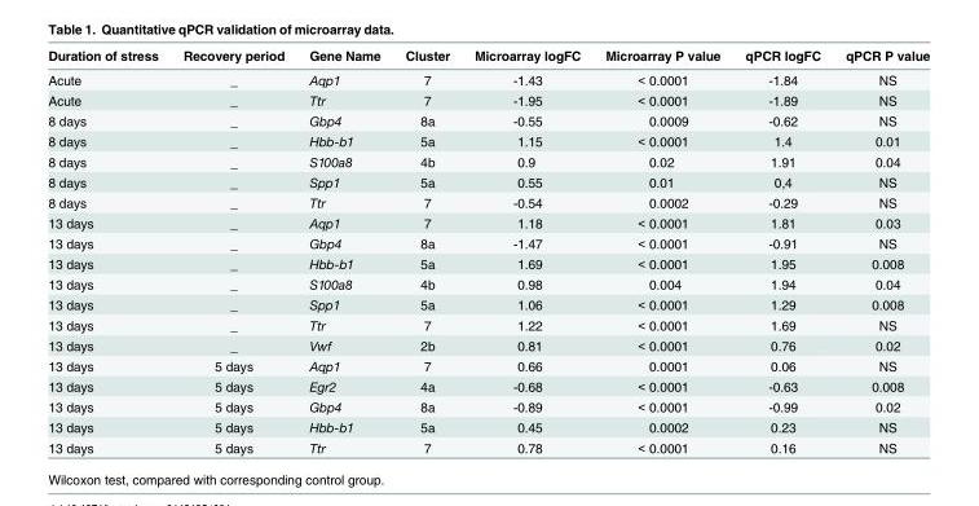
<table><thead><tr><td>Duration of stress</td><td>Recovery period</td><td>Gene Name</td><td>Cluster</td><td>Microarray logFC</td><td>Microarray P value</td><td>qPCR logFC</td><td>qPCR P value</td></tr></thead><tbody><tr><td>Acute</td><td>_</td><td>Aqp1</td><td>7</td><td>-1.43</td><td>&lt; 0.0001</td><td>-1.84</td><td>NS</td></tr><tr><td>Acute</td><td>_</td><td>Ttr</td><td>7</td><td>-1.95</td><td>&lt; 0.0001</td><td>-1.89</td><td>NS</td></tr><tr><td>8 days</td><td>_</td><td>Gbp4</td><td>8a</td><td>-0.55</td><td>0.0009</td><td>-0.62</td><td>NS</td></tr><tr><td>8 days</td><td>_</td><td>Hbb-b1</td><td>5a</td><td>1.15</td><td>&lt; 0.0001</td><td>1.4</td><td>0.01</td></tr><tr><td>8 days</td><td>_</td><td>S100a8</td><td>4b</td><td>0.9</td><td>0.02</td><td>1.91</td><td>0.04</td></tr><tr><td>8 days</td><td>_</td><td>Spp1</td><td>5a</td><td>0.55</td><td>0.01</td><td>0,4</td><td>NS</td></tr><tr><td>8 days</td><td>_</td><td>Ttr</td><td>7</td><td>-0.54</td><td>0.0002</td><td>-0.29</td><td>NS</td></tr><tr><td>13 days</td><td>_</td><td>Aqp1</td><td>7</td><td>1.18</td><td>&lt; 0.0001</td><td>1.81</td><td>0.03</td></tr><tr><td>13 days</td><td>_</td><td>Gbp4</td><td>8a</td><td>-1.47</td><td>&lt; 0.0001</td><td>-0.91</td><td>NS</td></tr><tr><td>13 days</td><td>_</td><td>Hbb-b1</td><td>5a</td><td>1.69</td><td>&lt; 0.0001</td><td>1.95</td><td>0.008</td></tr><tr><td>13 days</td><td>_</td><td>S100a8</td><td>4b</td><td>0.98</td><td>0.004</td><td>1.94</td><td>0.04</td></tr><tr><td>13 days</td><td>_</td><td>Spp1</td><td>5a</td><td>1.06</td><td>&lt; 0.0001</td><td>1.29</td><td>0.008</td></tr><tr><td>13 days</td><td>_</td><td>Ttr</td><td>7</td><td>1.22</td><td>&lt; 0.0001</td><td>1.69</td><td>NS</td></tr><tr><td>13 days</td><td>_</td><td>Vwf</td><td>2b</td><td>0.81</td><td>&lt; 0.0001</td><td>0.76</td><td>0.02</td></tr><tr><td>13 days</td><td>5 days</td><td>Aqp1</td><td>7</td><td>0.66</td><td>0.0001</td><td>0.06</td><td>NS</td></tr><tr><td>13 days</td><td>5 days</td><td>Egr2</td><td>4a</td><td>-0.68</td><td>&lt; 0.0001</td><td>-0.63</td><td>0.008</td></tr><tr><td>13 days</td><td>5 days</td><td>Gbp4</td><td>8a</td><td>-0.89</td><td>&lt; 0.0001</td><td>-0.99</td><td>0.02</td></tr><tr><td>13 days</td><td>5 days</td><td>Hbb-b1</td><td>5a</td><td>0.45</td><td>0.0002</td><td>0.23</td><td>NS</td></tr><tr><td>13 days</td><td>5 days</td><td>Ttr</td><td>7</td><td>0.78</td><td>&lt; 0.0001</td><td>0.16</td><td>NS</td></tr></tbody></table>